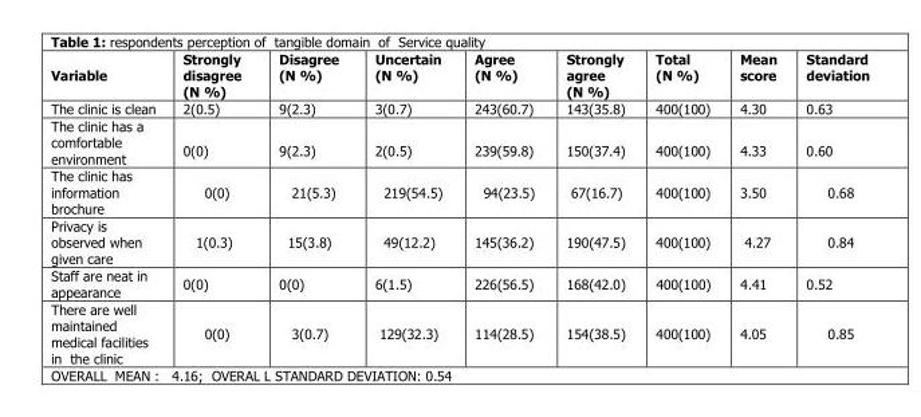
<table><thead><tr><td>Variable</td><td>Strongly disagree (N %)</td><td>Disagree (N %)</td><td>Uncertain (N %)</td><td>Agree (N %)</td><td>Strongly agree (N %)</td><td>Total (N %)</td><td>Mean score</td><td>Standard deviation</td></tr></thead><tbody><tr><td>The clinic is clean</td><td>2(0.5)</td><td>9(2.3)</td><td>3(0.7)</td><td>243(60.7)</td><td>143(35.8)</td><td>400(100)</td><td>4.30</td><td>0.63</td></tr><tr><td>The clinic has a comfortable environment</td><td>0(0)</td><td>9(2.3)</td><td>2(0.5)</td><td>239(59.8)</td><td>150(37.4)</td><td>400(100)</td><td>4.33</td><td>0.60</td></tr><tr><td>The clinic has information brochure</td><td>0(0)</td><td>21(5.3)</td><td>219(54.5)</td><td>94(23.5)</td><td>67(16.7)</td><td>400(100)</td><td>3.50</td><td>0.68</td></tr><tr><td>Privacy is observed when given care</td><td>1(0.3)</td><td>15(3.8)</td><td>49(12.2)</td><td>145(36.2)</td><td>190(47.5)</td><td>400(100)</td><td>4.27</td><td>0.84</td></tr><tr><td>Staff are neat in appearance</td><td>0(0)</td><td>0(0)</td><td>6(1.5)</td><td>226(56.5)</td><td>168(42.0)</td><td>400(100)</td><td>4.41</td><td>0.52</td></tr><tr><td>There are well maintained medical facilities in the clinic</td><td>0(0)</td><td>3(0.7)</td><td>129(32.3)</td><td>114(28.5)</td><td>154(38.5)</td><td>400(100)</td><td>4.05</td><td>0.85</td></tr></tbody></table>